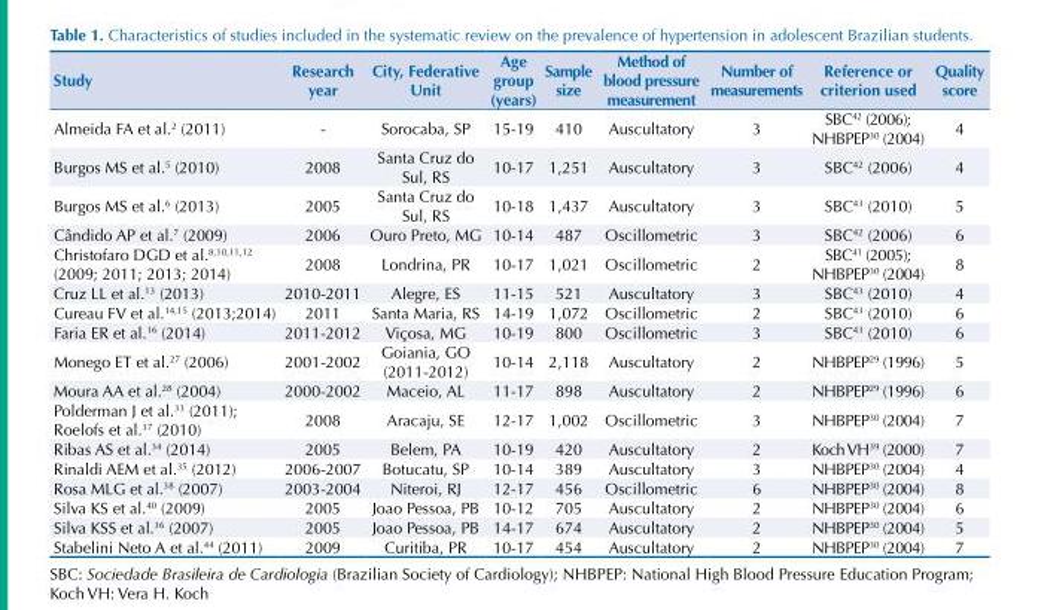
<table><thead><tr><td>Study</td><td>Research year</td><td>City, Federative Unit</td><td>Age group (years)</td><td>Sample size</td><td>Method of blood pressure measurement</td><td>Number of measurements</td><td>Reference or criterion used</td><td>Quality score</td></tr></thead><tbody><tr><td>Almeida FA et al.<sup>2</sup> (2011)</td><td>-</td><td>Sorocaba, SP</td><td>15-19</td><td>410</td><td>Auscultatory</td><td>3</td><td>SBC<sup>42</sup> (2006); NHBPEP<sup>30</sup> (2004)</td><td>4</td></tr><tr><td>Burgos MS et al.<sup>5</sup> (2010)</td><td>2008</td><td>Santa Cruz do Sul, RS</td><td>10-17</td><td>1,251</td><td>Auscultatory</td><td>3</td><td>SBC<sup>42</sup> (2006)</td><td>4</td></tr><tr><td>Burgos MS et al.<sup>6</sup> (2013)</td><td>2005</td><td>Santa Cruz do Sul, RS</td><td>10-18</td><td>1,437</td><td>Auscultatory</td><td>3</td><td>SBC<sup>43</sup> (2010)</td><td>5</td></tr><tr><td>Cândido AP et al.<sup>7</sup> (2009)</td><td>2006</td><td>Ouro Preto, MG</td><td>10-14</td><td>487</td><td>Oscillometric</td><td>3</td><td>SBC<sup>42</sup> (2006)</td><td>6</td></tr><tr><td>Christofaro DGD et al.<sup>8,10,11,12</sup> (2009; 2011; 2013; 2014)</td><td>2008</td><td>Londrina, PR</td><td>10-17</td><td>1,021</td><td>Oscillometric</td><td>2</td><td>SBC<sup>41</sup> (2005); NHBPEP<sup>30</sup> (2004)</td><td>8</td></tr><tr><td>Cruz LL et al.<sup>13</sup> (2013)</td><td>2010-2011</td><td>Alegre, ES</td><td>11-15</td><td>521</td><td>Auscultatory</td><td>3</td><td>SBC<sup>43</sup> (2010)</td><td>4</td></tr><tr><td>Cureau FV et al.<sup>14,15</sup> (2013;2014)</td><td>2011</td><td>Santa Maria, RS</td><td>14-19</td><td>1,072</td><td>Oscillometric</td><td>2</td><td>SBC<sup>43</sup> (2010)</td><td>6</td></tr><tr><td>Faria ER et al.<sup>16</sup> (2014)</td><td>2011-2012</td><td>Viçosa, MG</td><td>10-19</td><td>800</td><td>Oscillometric</td><td>3</td><td>SBC<sup>43</sup> (2010)</td><td>6</td></tr><tr><td>Monego ET et al.<sup>27</sup> (2006)</td><td>2001-2002</td><td>Goiania, GO (2011-2012)</td><td>10-14</td><td>2,118</td><td>Auscultatory</td><td>2</td><td>NHBPEP<sup>29</sup> (1996)</td><td>5</td></tr><tr><td>Moura AA et al.<sup>28</sup> (2004)</td><td>2000-2002</td><td>Maceio, AL</td><td>11-17</td><td>898</td><td>Auscultatory</td><td>2</td><td>NHBPEP<sup>29</sup> (1996)</td><td>6</td></tr><tr><td>Polderman J et al.<sup>33</sup> (2011); Roelofs et al.<sup>37</sup> (2010)</td><td>2008</td><td>Aracaju, SE</td><td>12-17</td><td>1,002</td><td>Oscillometric</td><td>3</td><td>NHBPEP<sup>30</sup> (2004)</td><td>7</td></tr><tr><td>Ribas AS et al.<sup>34</sup> (2014)</td><td>2005</td><td>Belem, PA</td><td>10-19</td><td>420</td><td>Auscultatory</td><td>2</td><td>Koch VH<sup>39</sup> (2000)</td><td>7</td></tr><tr><td>Rinaldi AEM et al.<sup>35</sup> (2012)</td><td>2006-2007</td><td>Botucatu, SP</td><td>10-14</td><td>389</td><td>Auscultatory</td><td>3</td><td>NHBPEP<sup>30</sup> (2004)</td><td>4</td></tr><tr><td>Rosa MLG et al.<sup>38</sup> (2007)</td><td>2003-2004</td><td>Niteroi, RJ</td><td>12-17</td><td>456</td><td>Oscillometric</td><td>6</td><td>NHBPEP<sup>30</sup> (2004)</td><td>8</td></tr><tr><td>Silva KS et al.<sup>40</sup> (2009)</td><td>2005</td><td>Joao Pessoa, PB</td><td>10-12</td><td>705</td><td>Auscultatory</td><td>2</td><td>NHBPEP<sup>30</sup> (2004)</td><td>6</td></tr><tr><td>Silva KSS et al.<sup>36</sup> (2007)</td><td>2005</td><td>Joao Pessoa, PB</td><td>14-17</td><td>674</td><td>Auscultatory</td><td>2</td><td>NHBPEP<sup>30</sup> (2004)</td><td>5</td></tr><tr><td>Stabelini Neto A et al.<sup>44</sup> (2011)</td><td>2009</td><td>Curitiba, PR</td><td>10-17</td><td>454</td><td>Auscultatory</td><td>2</td><td>NHBPEP<sup>30</sup> (2004)</td><td>7</td></tr></tbody></table>